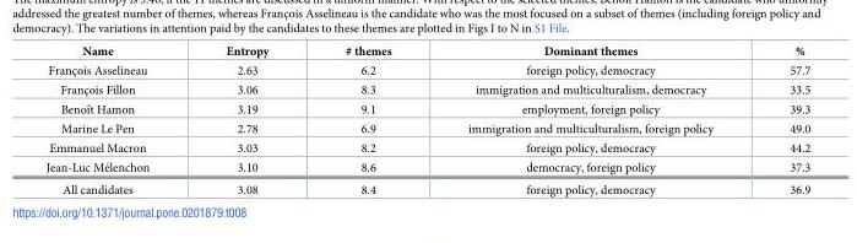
<table><thead><tr><td>Name</td><td>Entropy</td><td># themes</td><td>Dominant themes</td><td>%</td></tr></thead><tbody><tr><td>Franc¸ois Asselineau</td><td>2.63</td><td>6.2</td><td>foreign policy, democracy</td><td>57.7</td></tr><tr><td>Franc¸ois Fillon</td><td>3.06</td><td>8.3</td><td>immigration and multiculturalism, democracy</td><td>33.5</td></tr><tr><td>Benoıˆt Hamon</td><td>3.19</td><td>9.1</td><td>employment, foreign policy</td><td>39.3</td></tr><tr><td>Marine Le Pen</td><td>2.78</td><td>6.9</td><td>immigration and multiculturalism, foreign policy</td><td>49.0</td></tr><tr><td>Emmanuel Macron</td><td>3.03</td><td>8.2</td><td>foreign policy, democracy</td><td>44.2</td></tr><tr><td>Jean-Luc Me´lenchon</td><td>3.10</td><td>8.6</td><td>democracy, foreign policy</td><td>37.3</td></tr><tr><td>All candidates</td><td>3.08</td><td>8.4</td><td>foreign policy, democracy</td><td>36.9</td></tr></tbody></table>